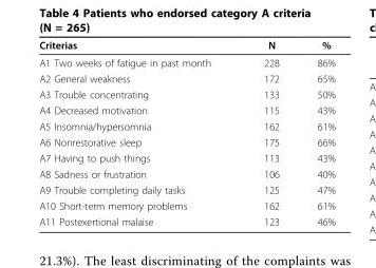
<table><thead><tr><td>Criterias</td><td>N</td><td>%</td></tr></thead><tbody><tr><td>A1 Two weeks of fatigue in past month</td><td>228</td><td>86%</td></tr><tr><td>A2 General weakness</td><td>172</td><td>65%</td></tr><tr><td>A3 Trouble concentrating</td><td>133</td><td>50%</td></tr><tr><td>A4 Decreased motivation</td><td>115</td><td>43%</td></tr><tr><td>A5 Insomnia/hypersomnia</td><td>162</td><td>61%</td></tr><tr><td>A6 Nonrestorative sleep</td><td>175</td><td>66%</td></tr><tr><td>A7 Having to push things</td><td>113</td><td>43%</td></tr><tr><td>A8 Sadness or frustration</td><td>106</td><td>40%</td></tr><tr><td>A9 Trouble completing daily tasks</td><td>125</td><td>47%</td></tr><tr><td>A10 Short-term memory problems</td><td>162</td><td>61%</td></tr><tr><td>A11 Postexertional malaise</td><td>123</td><td>46%</td></tr></tbody></table>